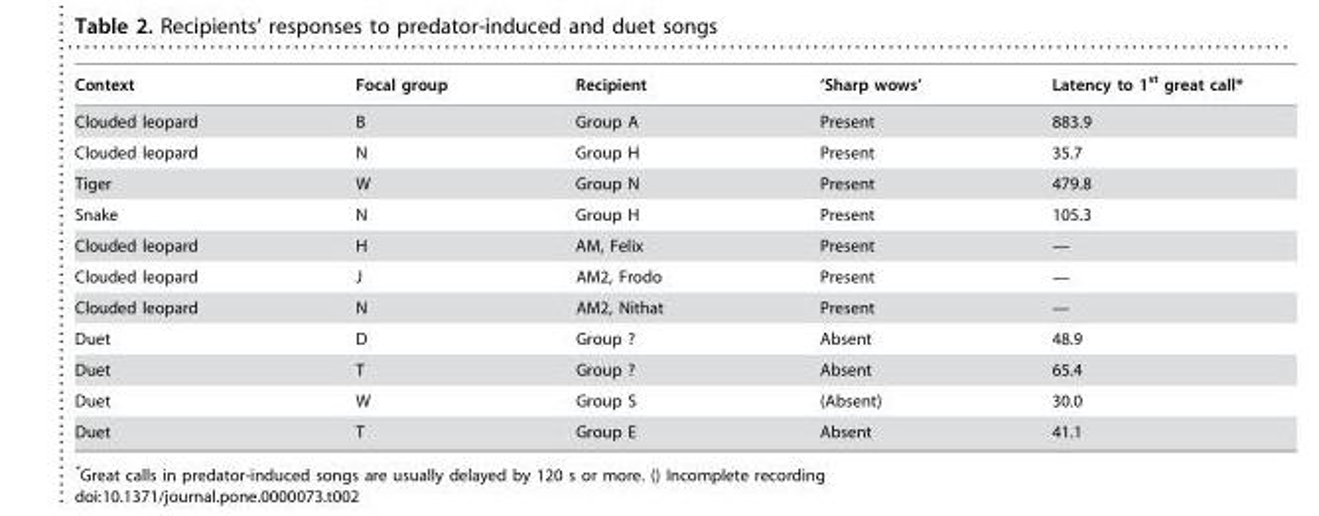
<table><thead><tr><td>Context</td><td>Focal group</td><td>Recipient</td><td>‘Sharp wows’</td><td>Latency to 1<sup>st</sup> great call*</td></tr></thead><tbody><tr><td>Clouded leopard</td><td>B</td><td>Group A</td><td>Present</td><td>883.9</td></tr><tr><td>Clouded leopard</td><td>N</td><td>Group H</td><td>Present</td><td>35.7</td></tr><tr><td>Tiger</td><td>W</td><td>Group N</td><td>Present</td><td>479.8</td></tr><tr><td>Snake</td><td>N</td><td>Group H</td><td>Present</td><td>105.3</td></tr><tr><td>Clouded leopard</td><td>H</td><td>AM, Felix</td><td>Present</td><td>—</td></tr><tr><td>Clouded leopard</td><td>J</td><td>AM2, Frodo</td><td>Present</td><td>—</td></tr><tr><td>Clouded leopard</td><td>N</td><td>AM2, Nithat</td><td>Present</td><td>—</td></tr><tr><td>Duet</td><td>D</td><td>Group ?</td><td>Absent</td><td>48.9</td></tr><tr><td>Duet</td><td>T</td><td>Group ?</td><td>Absent</td><td>65.4</td></tr><tr><td>Duet</td><td>W</td><td>Group S</td><td>(Absent)</td><td>30.0</td></tr><tr><td>Duet</td><td>T</td><td>Group E</td><td>Absent</td><td>41.1</td></tr></tbody></table>